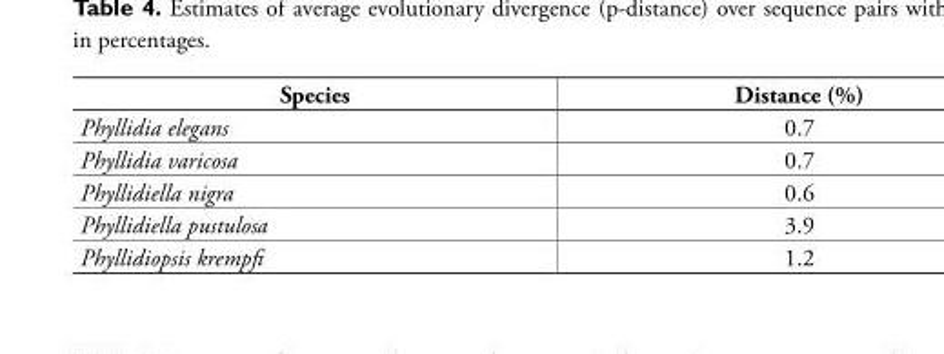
<table><thead><tr><td>Species</td><td>Distance (%)</td></tr></thead><tbody><tr><td>Phyllidia elegans</td><td>0.7</td></tr><tr><td>Phyllidia varicosa</td><td>0.7</td></tr><tr><td>Phyllidiella nigra</td><td>0.6</td></tr><tr><td>Phyllidiella pustulosa</td><td>3.9</td></tr><tr><td>Phyllidiopsis krempfi</td><td>1.2</td></tr></tbody></table>